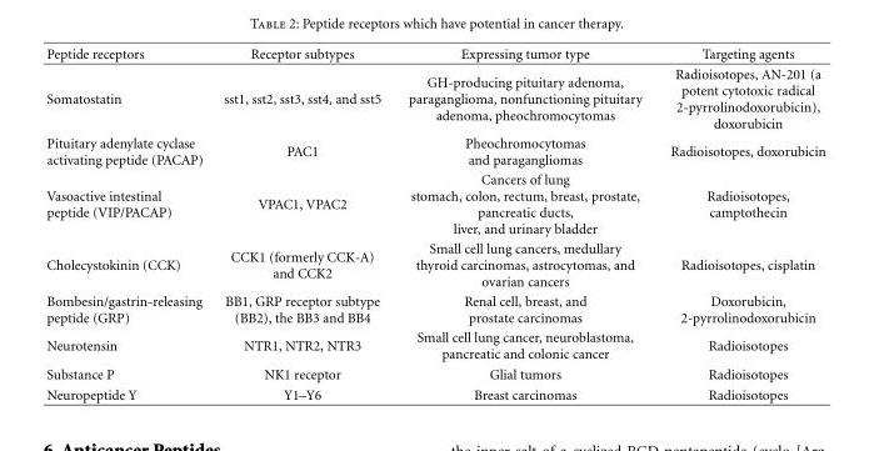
<table><thead><tr><td>Peptide receptors</td><td>Receptor subtypes</td><td>Expressing tumor type</td><td>Targeting agents</td></tr></thead><tbody><tr><td>Somatostatin</td><td>sst1, sst2, sst3, sst4, and sst5</td><td>GH-producing pituitary adenoma, paraganglioma, nonfunctioning pituitary adenoma, pheochromocytomas</td><td>Radioisotopes, AN-201 (a potent cytotoxic radical 2-pyrrolinodoxorubicin), doxorubicin</td></tr><tr><td>Pituitary adenylate cyclase activating peptide (PACAP)</td><td>PAC1</td><td>Pheochromocytomas and paragangliomas</td><td>Radioisotopes, doxorubicin</td></tr><tr><td>Vasoactive intestinal peptide (VIP/PACAP)</td><td>VPAC1, VPAC2</td><td>Cancers of lung stomach, colon, rectum, breast, prostate, pancreatic ducts, liver, and urinary bladder</td><td>Radioisotopes, camptothecin</td></tr><tr><td>Cholecystokinin (CCK)</td><td>CCK1 (formerly CCK-A) and CCK2</td><td>Small cell lung cancers, medullary thyroid carcinomas, astrocytomas, and ovarian cancers</td><td>Radioisotopes, cisplatin</td></tr><tr><td>Bombesin/gastrin-releasing peptide (GRP)</td><td>BB1, GRP receptor subtype (BB2), the BB3 and BB4</td><td>Renal cell, breast, and prostate carcinomas</td><td>Doxorubicin, 2-pyrrolinodoxorubicin</td></tr><tr><td>Neurotensin</td><td>NTR1, NTR2, NTR3</td><td>Small cell lung cancer, neuroblastoma, pancreatic and colonic cancer</td><td>Radioisotopes</td></tr><tr><td>Substance P</td><td>NK1 receptor</td><td>Glial tumors</td><td>Radioisotopes</td></tr><tr><td>Neuropeptide Y</td><td>Y1–Y6</td><td>Breast carcinomas</td><td>Radioisotopes</td></tr></tbody></table>